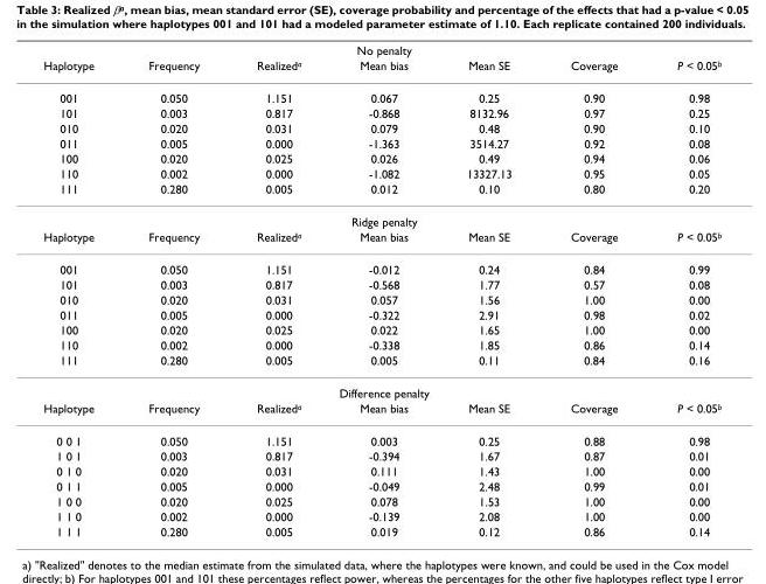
<table><thead><tr><td colspan="7">No penalty</td></tr><tr><td>Haplotype</td><td>Frequency</td><td>Realized<sup>a</sup></td><td>Mean bias</td><td>Mean SE</td><td>Coverage</td><td>P &lt; 0.05<sup>b</sup></td></tr></thead><tbody><tr><td>001</td><td>0.050</td><td>1.151</td><td>0.067</td><td>0.25</td><td>0.90</td><td>0.98</td></tr><tr><td>101</td><td>0.003</td><td>0.817</td><td>-0.868</td><td>8132.96</td><td>0.97</td><td>0.25</td></tr><tr><td>010</td><td>0.020</td><td>0.031</td><td>0.079</td><td>0.48</td><td>0.90</td><td>0.10</td></tr><tr><td>011</td><td>0.005</td><td>0.000</td><td>-1.363</td><td>3514.27</td><td>0.92</td><td>0.08</td></tr><tr><td>100</td><td>0.020</td><td>0.025</td><td>0.026</td><td>0.49</td><td>0.94</td><td>0.06</td></tr><tr><td>110</td><td>0.002</td><td>0.000</td><td>-1.082</td><td>13327.13</td><td>0.95</td><td>0.05</td></tr><tr><td>111</td><td>0.280</td><td>0.005</td><td>0.012</td><td>0.10</td><td>0.80</td><td>0.20</td></tr><tr><td colspan="7">Ridge penalty</td></tr><tr><td>Haplotype</td><td>Frequency</td><td>Realized<sup>a</sup></td><td>Mean bias</td><td>Mean SE</td><td>Coverage</td><td>P &lt; 0.05<sup>b</sup></td></tr><tr><td>001</td><td>0.050</td><td>1.151</td><td>-0.012</td><td>0.24</td><td>0.84</td><td>0.99</td></tr><tr><td>101</td><td>0.003</td><td>0.817</td><td>-0.568</td><td>1.77</td><td>0.57</td><td>0.08</td></tr><tr><td>010</td><td>0.020</td><td>0.031</td><td>0.057</td><td>1.56</td><td>1.00</td><td>0.00</td></tr><tr><td>011</td><td>0.005</td><td>0.000</td><td>-0.322</td><td>2.91</td><td>0.98</td><td>0.02</td></tr><tr><td>100</td><td>0.020</td><td>0.025</td><td>0.022</td><td>1.65</td><td>1.00</td><td>0.00</td></tr><tr><td>110</td><td>0.002</td><td>0.000</td><td>-0.338</td><td>1.85</td><td>0.86</td><td>0.14</td></tr><tr><td>111</td><td>0.280</td><td>0.005</td><td>0.005</td><td>0.11</td><td>0.84</td><td>0.16</td></tr><tr><td colspan="7">Difference penalty</td></tr><tr><td>Haplotype</td><td>Frequency</td><td>Realized<sup>a</sup></td><td>Mean bias</td><td>Mean SE</td><td>Coverage</td><td>P &lt; 0.05<sup>b</sup></td></tr><tr><td>0 0 1</td><td>0.050</td><td>1.151</td><td>0.003</td><td>0.25</td><td>0.88</td><td>0.98</td></tr><tr><td>1 0 1</td><td>0.003</td><td>0.817</td><td>-0.394</td><td>1.67</td><td>0.87</td><td>0.01</td></tr><tr><td>0 1 0</td><td>0.020</td><td>0.031</td><td>0.111</td><td>1.43</td><td>1.00</td><td>0.00</td></tr><tr><td>0 1 1</td><td>0.005</td><td>0.000</td><td>-0.049</td><td>2.48</td><td>0.99</td><td>0.01</td></tr><tr><td>1 0 0</td><td>0.020</td><td>0.025</td><td>0.078</td><td>1.53</td><td>1.00</td><td>0.00</td></tr><tr><td>1 1 0</td><td>0.002</td><td>0.000</td><td>-0.139</td><td>2.08</td><td>1.00</td><td>0.00</td></tr><tr><td>1 1 1</td><td>0.280</td><td>0.005</td><td>0.019</td><td>0.12</td><td>0.86</td><td>0.14</td></tr></tbody></table>